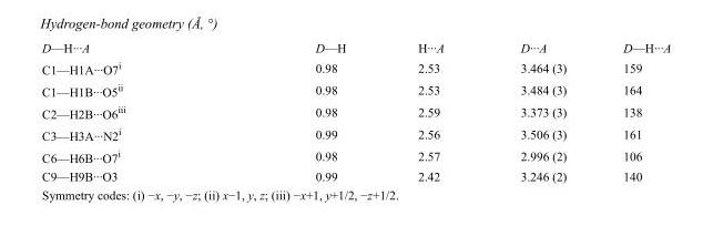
<table><tbody><tr><td>D—H···A</td><td>D—H</td><td>H···A</td><td>D···A</td><td>D—H···A</td></tr><tr><td>C1—H1A···O7<sup>i</sup></td><td>0.98</td><td>2.53</td><td>3.464 (3)</td><td>159</td></tr><tr><td>C1—H1B···O5<sup>ii</sup></td><td>0.98</td><td>2.53</td><td>3.484 (3)</td><td>164</td></tr><tr><td>C2—H2B···O6<sup>iii</sup></td><td>0.98</td><td>2.59</td><td>3.373 (3)</td><td>138</td></tr><tr><td>C3—H3A···N2<sup>i</sup></td><td>0.99</td><td>2.56</td><td>3.506 (3)</td><td>161</td></tr><tr><td>C6—H6B···O7<sup>i</sup></td><td>0.98</td><td>2.57</td><td>2.996 (2)</td><td>106</td></tr><tr><td>C9—H9B···O3</td><td>0.99</td><td>2.42</td><td>3.246 (2)</td><td>140</td></tr></tbody></table>